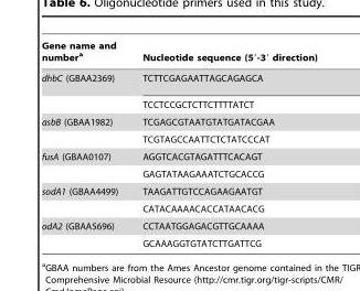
<table><thead><tr><td>Gene name and number<sup>a</sup></td><td>Nucleotide sequence (5′-3′ direction)</td></tr></thead><tbody><tr><td rowspan="2">dhbC (GBAA2369)</td><td>TCTTCGAGAATTAGCAGAGCA</td></tr><tr><td>TCCTCCGCTCTTCTTTTATCT</td></tr><tr><td rowspan="2">asbB (GBAA1982)</td><td>TCGAGCGTAATGTATGATACGAA</td></tr><tr><td>TCGTAGCCAATTCTCTATCCCAT</td></tr><tr><td rowspan="2">fusA (GBAA0107)</td><td>AGGTCACGTAGATTTCACAGT</td></tr><tr><td>GAGTATAAGAAATCTGCACCG</td></tr><tr><td rowspan="2">sodA1 (GBAA4499)</td><td>TAAGATTGTCCAGAAGAATGT</td></tr><tr><td>CATACAAAACACCATAACACG</td></tr><tr><td rowspan="2">odA2 (GBAA5696)</td><td>CCTAATGGAGACGTTGCAAAA</td></tr><tr><td>GCAAAGGTGTATCTTGATTCG</td></tr></tbody></table>